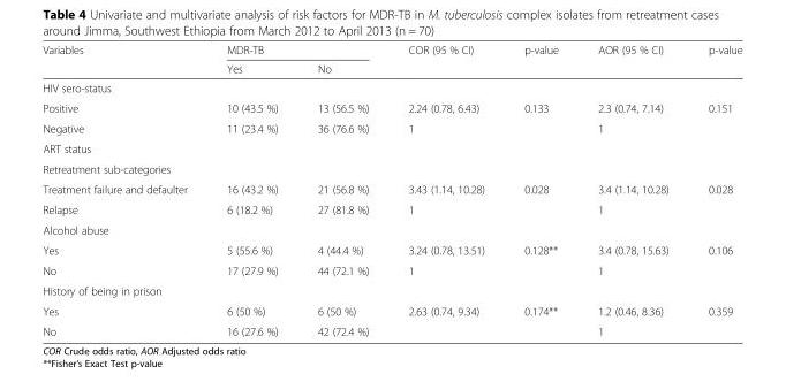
<table><thead><tr><td rowspan="2">Variables</td><td colspan="2">MDR-TB</td><td rowspan="2">COR (95 % CI)</td><td rowspan="2">p-value</td><td rowspan="2">AOR (95 % CI)</td><td rowspan="2">p-value</td></tr><tr><td>Yes</td><td>No</td></tr></thead><tbody><tr><td colspan="7">HIV sero-status</td></tr><tr><td>Positive</td><td>10 (43.5 %)</td><td>13 (56.5 %)</td><td>2.24 (0.78, 6.43)</td><td rowspan="2">0.133</td><td>2.3 (0.74, 7.14)</td><td>0.151</td></tr><tr><td>Negative</td><td>11 (23.4 %)</td><td>36 (76.6 %)</td><td>1</td><td>1</td><td></td></tr><tr><td colspan="7">ART status</td></tr><tr><td colspan="7">Retreatment sub-categories</td></tr><tr><td>Treatment failure and defaulter</td><td>16 (43.2 %)</td><td>21 (56.8 %)</td><td>3.43 (1.14, 10.28)</td><td rowspan="2">0.028</td><td>3.4 (1.14, 10.28)</td><td>0.028</td></tr><tr><td>Relapse</td><td>6 (18.2 %)</td><td>27 (81.8 %)</td><td>1</td><td>1</td><td></td></tr><tr><td colspan="7">Alcohol abuse</td></tr><tr><td>Yes</td><td>5 (55.6 %)</td><td>4 (44.4 %)</td><td>3.24 (0.78, 13.51)</td><td rowspan="2">0.128**</td><td>3.4 (0.78, 15.63)</td><td>0.106</td></tr><tr><td>No</td><td>17 (27.9 %)</td><td>44 (72.1 %)</td><td>1</td><td>1</td><td></td></tr><tr><td colspan="7">History of being in prison</td></tr><tr><td>Yes</td><td>6 (50 %)</td><td>6 (50 %)</td><td>2.63 (0.74, 9.34)</td><td rowspan="2">0.174**</td><td>1.2 (0.46, 8.36)</td><td>0.359</td></tr><tr><td>No</td><td>16 (27.6 %)</td><td>42 (72.4 %)</td><td></td><td>1</td><td></td></tr></tbody></table>